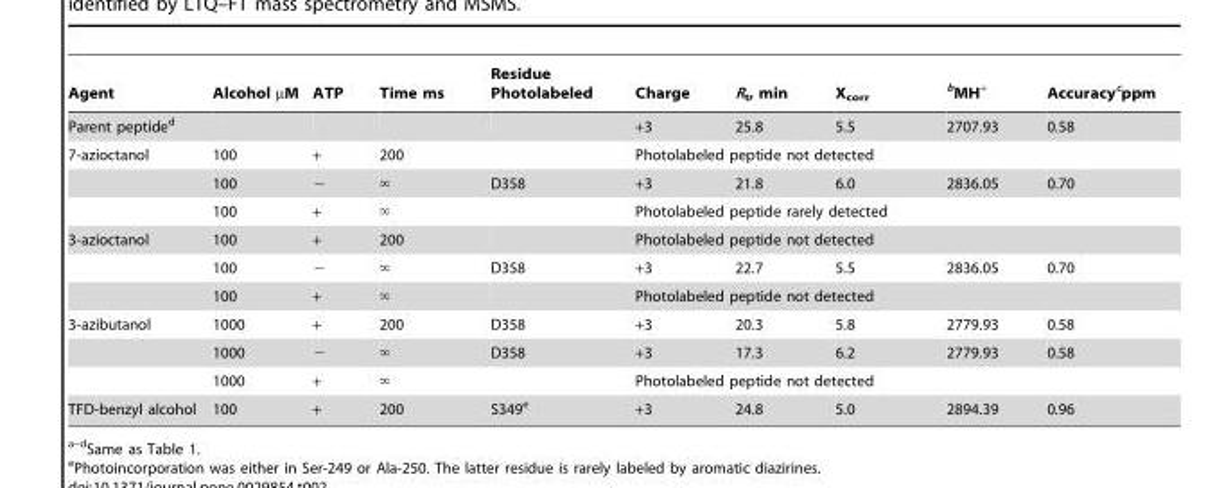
<table><thead><tr><td>Agent</td><td>Alcohol µM</td><td>ATP</td><td>Time ms</td><td>Residue Photolabeled</td><td>Charge</td><td>R<sub>t</sub>, min</td><td>X<sub>corr</sub></td><td>bMH<sup>+</sup></td><td>Accuracy<sup>c</sup>ppm</td></tr></thead><tbody><tr><td colspan="2">Parent peptide<sup>d</sup></td><td></td><td></td><td></td><td>+3</td><td>25.8</td><td>5.5</td><td>2707.93</td><td>0.58</td></tr><tr><td rowspan="3">7-azioctanol</td><td>100</td><td>+</td><td>200</td><td></td><td colspan="5">Photolabeled peptide not detected</td></tr><tr><td>100</td><td>−</td><td>‘</td><td>D358</td><td>+3</td><td>21.8</td><td>6.0</td><td>2836.05</td><td>0.70</td></tr><tr><td>100</td><td>+</td><td>‘</td><td></td><td colspan="5">Photolabeled peptide rarely detected</td></tr><tr><td rowspan="3">3-azioctanol</td><td>100</td><td>+</td><td>200</td><td></td><td colspan="5">Photolabeled peptide not detected</td></tr><tr><td>100</td><td>−</td><td>‘</td><td>D358</td><td>+3</td><td>22.7</td><td>5.5</td><td>2836.05</td><td>0.70</td></tr><tr><td>100</td><td>+</td><td>‘</td><td></td><td colspan="5">Photolabeled peptide not detected</td></tr><tr><td rowspan="3">3-azibutanol</td><td>1000</td><td>+</td><td>200</td><td>D358</td><td>+3</td><td>20.3</td><td>5.8</td><td>2779.93</td><td>0.58</td></tr><tr><td>1000</td><td>−</td><td>‘</td><td>D358</td><td>+3</td><td>17.3</td><td>6.2</td><td>2779.93</td><td>0.58</td></tr><tr><td>1000</td><td>+</td><td>‘</td><td></td><td colspan="5">Photolabeled peptide not detected</td></tr><tr><td>TFD-benzyl alcohol</td><td>100</td><td>+</td><td>200</td><td>S349<sup>e</sup></td><td>+3</td><td>24.8</td><td>5.0</td><td>2894.39</td><td>0.96</td></tr></tbody></table>